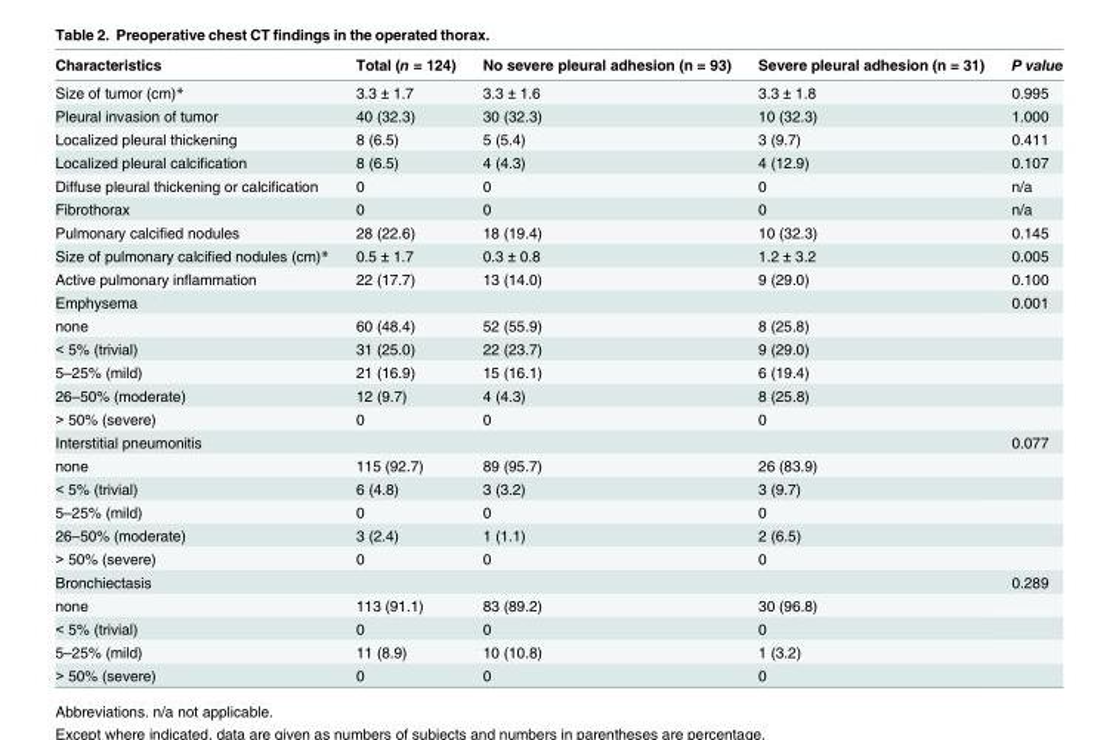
<table><thead><tr><td>Characteristics</td><td>Total (n = 124)</td><td>No severe pleural adhesion (n = 93)</td><td>Severe pleural adhesion (n = 31)</td><td>P value</td></tr></thead><tbody><tr><td>Size of tumor (cm)*</td><td>3.3 ± 1.7</td><td>3.3 ± 1.6</td><td>3.3 ± 1.8</td><td>0.995</td></tr><tr><td>Pleural invasion of tumor</td><td>40 (32.3)</td><td>30 (32.3)</td><td>10 (32.3)</td><td>1.000</td></tr><tr><td>Localized pleural thickening</td><td>8 (6.5)</td><td>5 (5.4)</td><td>3 (9.7)</td><td>0.411</td></tr><tr><td>Localized pleural calcification</td><td>8 (6.5)</td><td>4 (4.3)</td><td>4 (12.9)</td><td>0.107</td></tr><tr><td>Diffuse pleural thickening or calcification</td><td>0</td><td>0</td><td>0</td><td>n/a</td></tr><tr><td>Fibrothorax</td><td>0</td><td>0</td><td>0</td><td>n/a</td></tr><tr><td>Pulmonary calcified nodules</td><td>28 (22.6)</td><td>18 (19.4)</td><td>10 (32.3)</td><td>0.145</td></tr><tr><td>Size of pulmonary calcified nodules (cm)*</td><td>0.5 ± 1.7</td><td>0.3 ± 0.8</td><td>1.2 ± 3.2</td><td>0.005</td></tr><tr><td>Active pulmonary inflammation</td><td>22 (17.7)</td><td>13 (14.0)</td><td>9 (29.0)</td><td>0.100</td></tr><tr><td>Emphysema</td><td></td><td></td><td></td><td>0.001</td></tr><tr><td>none</td><td>60 (48.4)</td><td>52 (55.9)</td><td>8 (25.8)</td><td></td></tr><tr><td>&lt; 5% (trivial)</td><td>31 (25.0)</td><td>22 (23.7)</td><td>9 (29.0)</td><td></td></tr><tr><td>5–25% (mild)</td><td>21 (16.9)</td><td>15 (16.1)</td><td>6 (19.4)</td><td></td></tr><tr><td>26–50% (moderate)</td><td>12 (9.7)</td><td>4 (4.3)</td><td>8 (25.8)</td><td></td></tr><tr><td>&gt; 50% (severe)</td><td>0</td><td>0</td><td>0</td><td></td></tr><tr><td>Interstitial pneumonitis</td><td></td><td></td><td></td><td>0.077</td></tr><tr><td>none</td><td>115 (92.7)</td><td>89 (95.7)</td><td>26 (83.9)</td><td></td></tr><tr><td>&lt; 5% (trivial)</td><td>6 (4.8)</td><td>3 (3.2)</td><td>3 (9.7)</td><td></td></tr><tr><td>5–25% (mild)</td><td>0</td><td>0</td><td>0</td><td></td></tr><tr><td>26–50% (moderate)</td><td>3 (2.4)</td><td>1 (1.1)</td><td>2 (6.5)</td><td></td></tr><tr><td>&gt; 50% (severe)</td><td>0</td><td>0</td><td>0</td><td></td></tr><tr><td>Bronchiectasis</td><td></td><td></td><td></td><td>0.289</td></tr><tr><td>none</td><td>113 (91.1)</td><td>83 (89.2)</td><td>30 (96.8)</td><td></td></tr><tr><td>&lt; 5% (trivial)</td><td>0</td><td>0</td><td>0</td><td></td></tr><tr><td>5–25% (mild)</td><td>11 (8.9)</td><td>10 (10.8)</td><td>1 (3.2)</td><td></td></tr><tr><td>&gt; 50% (severe)</td><td>0</td><td>0</td><td>0</td><td></td></tr></tbody></table>